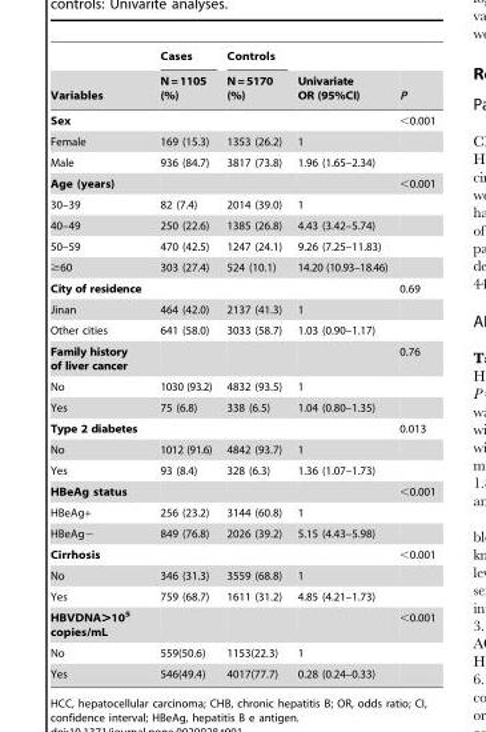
<table><thead><tr><td rowspan="2">Variables</td><td rowspan="2">Cases N=1105 (%)</td><td rowspan="2">Controls N=5170 (%)</td><td rowspan="2">Univariate OR (95%CI)</td><td rowspan="2">P</td></tr><tr></tr></thead><tbody><tr><td>Sex</td><td></td><td></td><td></td><td>&lt;0.001</td></tr><tr><td>Female</td><td>169 (15.3)</td><td>1353 (26.2)</td><td>1</td><td></td></tr><tr><td>Male</td><td>936 (84.7)</td><td>3817 (73.8)</td><td>1.96 (1.65–2.34)</td><td></td></tr><tr><td>Age (years)</td><td></td><td></td><td></td><td>&lt;0.001</td></tr><tr><td>30–39</td><td>82 (7.4)</td><td>2014 (39.0)</td><td>1</td><td></td></tr><tr><td>40–49</td><td>250 (22.6)</td><td>1385 (26.8)</td><td>4.43 (3.42–5.74)</td><td></td></tr><tr><td>50–59</td><td>470 (42.5)</td><td>1247 (24.1)</td><td>9.26 (7.25–11.83)</td><td></td></tr><tr><td>≥60</td><td>303 (27.4)</td><td>524 (10.1)</td><td>14.20 (10.93–18.46)</td><td></td></tr><tr><td>City of residence</td><td></td><td></td><td></td><td>0.69</td></tr><tr><td>Jinan</td><td>464 (42.0)</td><td>2137 (41.3)</td><td>1</td><td></td></tr><tr><td>Other cities</td><td>641 (58.0)</td><td>3033 (58.7)</td><td>1.03 (0.90–1.17)</td><td></td></tr><tr><td>Family history of liver cancer</td><td></td><td></td><td></td><td>0.76</td></tr><tr><td>No</td><td>1030 (93.2)</td><td>4832 (93.5)</td><td>1</td><td></td></tr><tr><td>Yes</td><td>75 (6.8)</td><td>338 (6.5)</td><td>1.04 (0.80–1.35)</td><td></td></tr><tr><td>Type 2 diabetes</td><td></td><td></td><td></td><td>0.013</td></tr><tr><td>No</td><td>1012 (91.6)</td><td>4842 (93.7)</td><td>1</td><td></td></tr><tr><td>Yes</td><td>93 (8.4)</td><td>328 (6.3)</td><td>1.36 (1.07–1.73)</td><td></td></tr><tr><td>HBeAg status</td><td></td><td></td><td></td><td>&lt;0.001</td></tr><tr><td>HBeAg+</td><td>256 (23.2)</td><td>3144 (60.8)</td><td>1</td><td></td></tr><tr><td>HBeAg−</td><td>849 (76.8)</td><td>2026 (39.2)</td><td>5.15 (4.43–5.98)</td><td></td></tr><tr><td>Cirrhosis</td><td></td><td></td><td></td><td>&lt;0.001</td></tr><tr><td>No</td><td>346 (31.3)</td><td>3559 (68.8)</td><td>1</td><td></td></tr><tr><td>Yes</td><td>759 (68.7)</td><td>1611 (31.2)</td><td>4.85 (4.21–1.73)</td><td></td></tr><tr><td>HBVDNA&gt;10<sup>5</sup> copies/mL</td><td></td><td></td><td></td><td>&lt;0.001</td></tr><tr><td>No</td><td>559(50.6)</td><td>1153(22.3)</td><td>1</td><td></td></tr><tr><td>Yes</td><td>546(49.4)</td><td>4017(77.7)</td><td>0.28 (0.24–0.33)</td><td></td></tr></tbody></table>